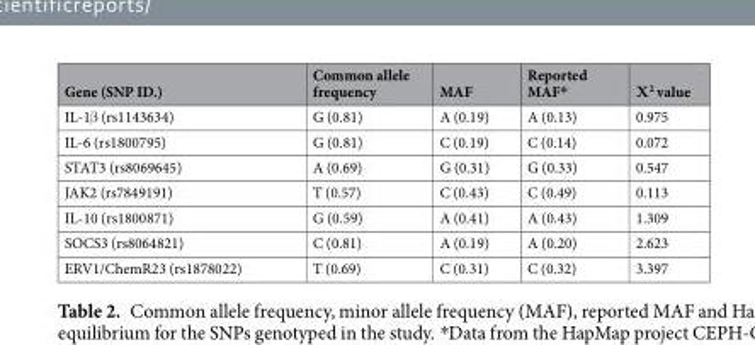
<table><thead><tr><td>Gene (SNP ID.)</td><td>Common allele frequency</td><td>MAF</td><td>Reported MAF*</td><td>Χ<sup>2</sup> value</td></tr></thead><tbody><tr><td>IL-1β (rs1143634)</td><td>G (0.81)</td><td>A (0.19)</td><td>A (0.13)</td><td>0.975</td></tr><tr><td>IL-6 (rs1800795)</td><td>G (0.81)</td><td>C (0.19)</td><td>C (0.14)</td><td>0.072</td></tr><tr><td>STAT3 (rs8069645)</td><td>A (0.69)</td><td>G (0.31)</td><td>G (0.33)</td><td>0.547</td></tr><tr><td>JAK2 (rs7849191)</td><td>T (0.57)</td><td>C (0.43)</td><td>C (0.49)</td><td>0.113</td></tr><tr><td>IL-10 (rs1800871)</td><td>G (0.59)</td><td>A (0.41)</td><td>A (0.43)</td><td>1.309</td></tr><tr><td>SOCS3 (rs8064821)</td><td>C (0.81)</td><td>A (0.19)</td><td>A (0.20)</td><td>2.623</td></tr><tr><td>ERV1/ChemR23 (rs1878022)</td><td>T (0.69)</td><td>C (0.31)</td><td>C (0.32)</td><td>3.397</td></tr></tbody></table>